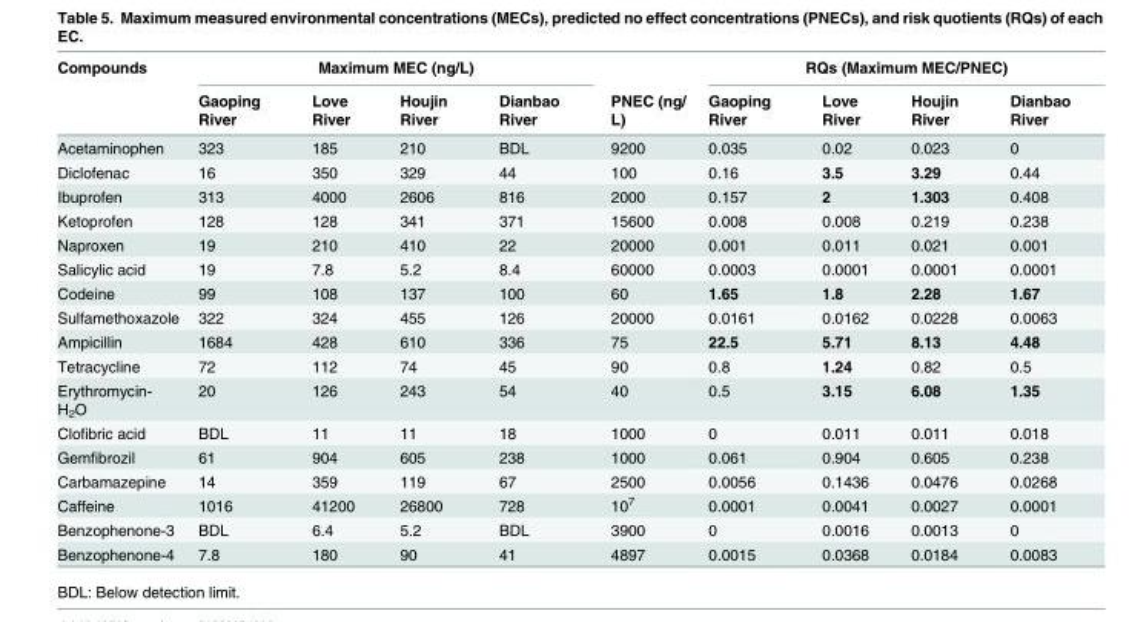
<table><thead><tr><td rowspan="2">Compounds</td><td colspan="4">Maximum MEC (ng/L)</td><td rowspan="2">PNEC (ng/ L)</td><td colspan="4">RQs (Maximum MEC/PNEC)</td></tr><tr><td>Gaoping River</td><td>Love River</td><td>Houjin River</td><td>Dianbao River</td><td>Gaoping River</td><td>Love River</td><td>Houjin River</td><td>Dianbao River</td></tr></thead><tbody><tr><td>Acetaminophen</td><td>323</td><td>185</td><td>210</td><td>BDL</td><td>9200</td><td>0.035</td><td>0.02</td><td>0.023</td><td>0</td></tr><tr><td>Diclofenac</td><td>16</td><td>350</td><td>329</td><td>44</td><td>100</td><td>0.16</td><td>3.5</td><td>3.29</td><td>0.44</td></tr><tr><td>Ibuprofen</td><td>313</td><td>4000</td><td>2606</td><td>816</td><td>2000</td><td>0.157</td><td>2</td><td>1.303</td><td>0.408</td></tr><tr><td>Ketoprofen</td><td>128</td><td>128</td><td>341</td><td>371</td><td>15600</td><td>0.008</td><td>0.008</td><td>0.219</td><td>0.238</td></tr><tr><td>Naproxen</td><td>19</td><td>210</td><td>410</td><td>22</td><td>20000</td><td>0.001</td><td>0.011</td><td>0.021</td><td>0.001</td></tr><tr><td>Salicylic acid</td><td>19</td><td>7.8</td><td>5.2</td><td>8.4</td><td>60000</td><td>0.0003</td><td>0.0001</td><td>0.0001</td><td>0.0001</td></tr><tr><td>Codeine</td><td>99</td><td>108</td><td>137</td><td>100</td><td>60</td><td>1.65</td><td>1.8</td><td>2.28</td><td>1.67</td></tr><tr><td>Sulfamethoxazole</td><td>322</td><td>324</td><td>455</td><td>126</td><td>20000</td><td>0.0161</td><td>0.0162</td><td>0.0228</td><td>0.0063</td></tr><tr><td>Ampicillin</td><td>1684</td><td>428</td><td>610</td><td>336</td><td>75</td><td>22.5</td><td>5.71</td><td>8.13</td><td>4.48</td></tr><tr><td>Tetracycline</td><td>72</td><td>112</td><td>74</td><td>45</td><td>90</td><td>0.8</td><td>1.24</td><td>0.82</td><td>0.5</td></tr><tr><td>Erythromycin- H<sub>2</sub>O</td><td>20</td><td>126</td><td>243</td><td>54</td><td>40</td><td>0.5</td><td>3.15</td><td>6.08</td><td>1.35</td></tr><tr><td>Clofibric acid</td><td>BDL</td><td>11</td><td>11</td><td>18</td><td>1000</td><td>0</td><td>0.011</td><td>0.011</td><td>0.018</td></tr><tr><td>Gemfibrozil</td><td>61</td><td>904</td><td>605</td><td>238</td><td>1000</td><td>0.061</td><td>0.904</td><td>0.605</td><td>0.238</td></tr><tr><td>Carbamazepine</td><td>14</td><td>359</td><td>119</td><td>67</td><td>2500</td><td>0.0056</td><td>0.1436</td><td>0.0476</td><td>0.0268</td></tr><tr><td>Caffeine</td><td>1016</td><td>41200</td><td>26800</td><td>728</td><td>10<sup>7</sup></td><td>0.0001</td><td>0.0041</td><td>0.0027</td><td>0.0001</td></tr><tr><td>Benzophenone-3</td><td>BDL</td><td>6.4</td><td>5.2</td><td>BDL</td><td>3900</td><td>0</td><td>0.0016</td><td>0.0013</td><td>0</td></tr><tr><td>Benzophenone-4</td><td>7.8</td><td>180</td><td>90</td><td>41</td><td>4897</td><td>0.0015</td><td>0.0368</td><td>0.0184</td><td>0.0083</td></tr></tbody></table>